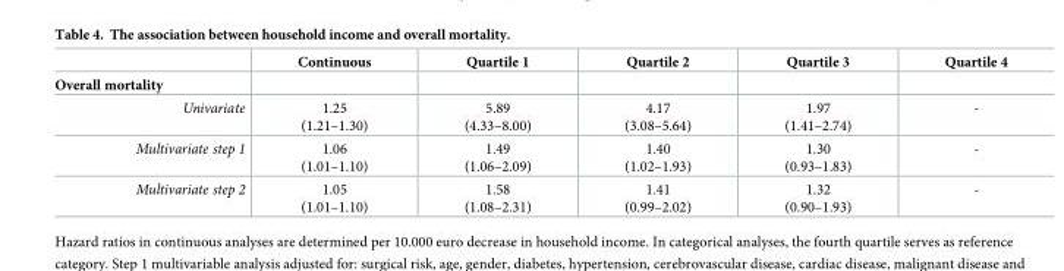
<table><thead><tr><td rowspan="2">Overall mortality</td><td rowspan="2">Continuous</td><td rowspan="2">Quartile 1</td><td rowspan="2">Quartile 2</td><td rowspan="2">Quartile 3</td><td rowspan="2">Quartile 4</td></tr><tr></tr></thead><tbody><tr><td>Univariate</td><td>1.25 (1.21–1.30)</td><td>5.89 (4.33–8.00)</td><td>4.17 (3.08–5.64)</td><td>1.97 (1.41–2.74)</td><td>-</td></tr><tr><td>Multivariate step 1</td><td>1.06 (1.01–1.10)</td><td>1.49 (1.06–2.09)</td><td>1.40 (1.02–1.93)</td><td>1.30 (0.93–1.83)</td><td>-</td></tr><tr><td>Multivariate step 2</td><td>1.05 (1.01–1.10)</td><td>1.58 (1.08–2.31)</td><td>1.41 (0.99–2.02)</td><td>1.32 (0.90–1.93)</td><td>-</td></tr></tbody></table>